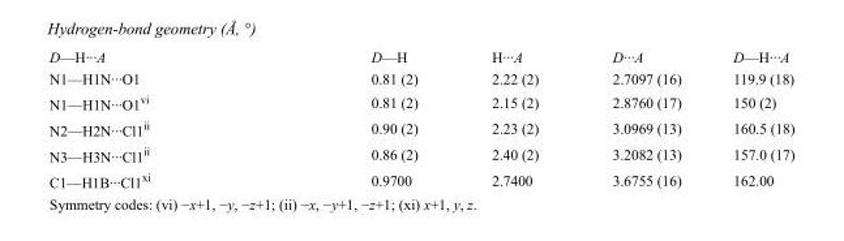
<table><tbody><tr><td>D—H···A</td><td>D—H</td><td>H···A</td><td>D···A</td><td>D—H···A</td></tr><tr><td>N1—H1N···O1</td><td>0.81 (2)</td><td>2.22 (2)</td><td>2.7097 (16)</td><td>119.9 (18)</td></tr><tr><td>N1—H1N···O1<sup>vi</sup></td><td>0.81 (2)</td><td>2.15 (2)</td><td>2.8760 (17)</td><td>150 (2)</td></tr><tr><td>N2—H2N···Cl1<sup>ii</sup></td><td>0.90 (2)</td><td>2.23 (2)</td><td>3.0969 (13)</td><td>160.5 (18)</td></tr><tr><td>N3—H3N···Cl1<sup>ii</sup></td><td>0.86 (2)</td><td>2.40 (2)</td><td>3.2082 (13)</td><td>157.0 (17)</td></tr><tr><td>C1—H1B···Cl1<sup>xi</sup></td><td>0.9700</td><td>2.7400</td><td>3.6755 (16)</td><td>162.00</td></tr></tbody></table>